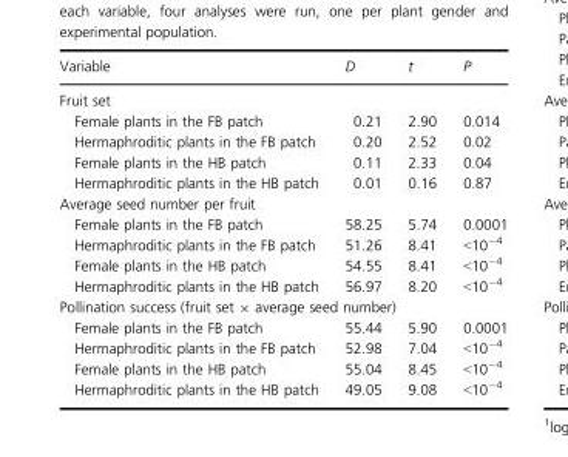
<table><thead><tr><td>Variable</td><td>D</td><td>t</td><td>P</td></tr></thead><tbody><tr><td colspan="4">Fruit set</td></tr><tr><td>Female plants in the FB patch</td><td>0.21</td><td>2.90</td><td>0.014</td></tr><tr><td>Hermaphroditic plants in the FB patch</td><td>0.20</td><td>2.52</td><td>0.02</td></tr><tr><td>Female plants in the HB patch</td><td>0.11</td><td>2.33</td><td>0.04</td></tr><tr><td>Hermaphroditic plants in the HB patch</td><td>0.01</td><td>0.16</td><td>0.87</td></tr><tr><td colspan="4">Average seed number per fruit</td></tr><tr><td>Female plants in the FB patch</td><td>58.25</td><td>5.74</td><td>0.0001</td></tr><tr><td>Hermaphroditic plants in the FB patch</td><td>51.26</td><td>8.41</td><td>&lt;10<sup>−4</sup></td></tr><tr><td>Female plants in the HB patch</td><td>54.55</td><td>8.41</td><td>&lt;10<sup>−4</sup></td></tr><tr><td>Hermaphroditic plants in the HB patch</td><td>56.97</td><td>8.20</td><td>&lt;10<sup>−4</sup></td></tr><tr><td colspan="4">Pollination success (fruit set × average seed number)</td></tr><tr><td>Female plants in the FB patch</td><td>55.44</td><td>5.90</td><td>0.0001</td></tr><tr><td>Hermaphroditic plants in the FB patch</td><td>52.98</td><td>7.04</td><td>&lt;10<sup>−4</sup></td></tr><tr><td>Female plants in the HB patch</td><td>55.04</td><td>8.45</td><td>&lt;10<sup>−4</sup></td></tr><tr><td>Hermaphroditic plants in the HB patch</td><td>49.05</td><td>9.08</td><td>&lt;10<sup>−4</sup></td></tr></tbody></table>